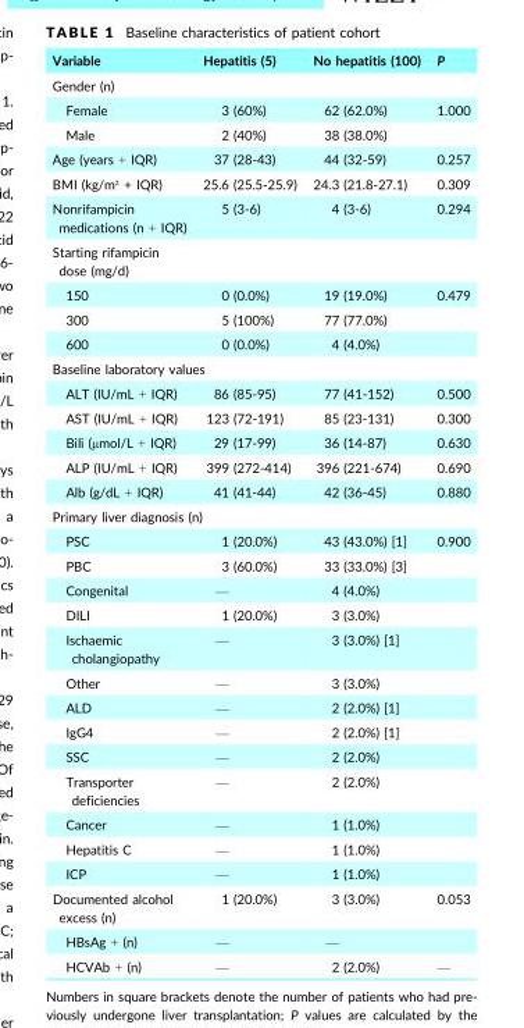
<table><thead><tr><td>Variable</td><td>Hepatitis (5)</td><td>No hepatitis (100)</td><td>P</td></tr></thead><tbody><tr><td colspan="4">Gender (n)</td></tr><tr><td>Female</td><td>3 (60%)</td><td>62 (62.0%)</td><td>1.000</td></tr><tr><td>Male</td><td>2 (40%)</td><td>38 (38.0%)</td><td></td></tr><tr><td>Age (years + IQR)</td><td>37 (28-43)</td><td>44 (32-59)</td><td>0.257</td></tr><tr><td>BMI (kg/m² + IQR)</td><td>25.6 (25.5-25.9)</td><td>24.3 (21.8-27.1)</td><td>0.309</td></tr><tr><td>Nonrifampicin medications (n + IQR)</td><td>5 (3-6)</td><td>4 (3-6)</td><td>0.294</td></tr><tr><td colspan="4">Starting rifampicin dose (mg/d)</td></tr><tr><td>150</td><td>0 (0.0%)</td><td>19 (19.0%)</td><td>0.479</td></tr><tr><td>300</td><td>5 (100%)</td><td>77 (77.0%)</td><td></td></tr><tr><td>600</td><td>0 (0.0%)</td><td>4 (4.0%)</td><td></td></tr><tr><td colspan="4">Baseline laboratory values</td></tr><tr><td>ALT (IU/mL + IQR)</td><td>86 (85-95)</td><td>77 (41-152)</td><td>0.500</td></tr><tr><td>AST (IU/mL + IQR)</td><td>123 (72-191)</td><td>85 (23-131)</td><td>0.300</td></tr><tr><td>Bili (μmol/L + IQR)</td><td>29 (17-99)</td><td>36 (14-87)</td><td>0.630</td></tr><tr><td>ALP (IU/mL + IQR)</td><td>399 (272-414)</td><td>396 (221-674)</td><td>0.690</td></tr><tr><td>Alb (g/dL + IQR)</td><td>41 (41-44)</td><td>42 (36-45)</td><td>0.880</td></tr><tr><td colspan="4">Primary liver diagnosis (n)</td></tr><tr><td>PSC</td><td>1 (20.0%)</td><td>43 (43.0%) [1]</td><td>0.900</td></tr><tr><td>PBC</td><td>3 (60.0%)</td><td>33 (33.0%) [3]</td><td></td></tr><tr><td>Congenital</td><td>—</td><td>4 (4.0%)</td><td></td></tr><tr><td>DILI</td><td>1 (20.0%)</td><td>3 (3.0%)</td><td></td></tr><tr><td>Ischaemic cholangiopathy</td><td>—</td><td>3 (3.0%) [1]</td><td></td></tr><tr><td>Other</td><td>—</td><td>3 (3.0%)</td><td></td></tr><tr><td>ALD</td><td>—</td><td>2 (2.0%) [1]</td><td></td></tr><tr><td>IgG4</td><td>—</td><td>2 (2.0%) [1]</td><td></td></tr><tr><td>SSC</td><td>—</td><td>2 (2.0%)</td><td></td></tr><tr><td>Transporter deficiencies</td><td>—</td><td>2 (2.0%)</td><td></td></tr><tr><td>Cancer</td><td>—</td><td>1 (1.0%)</td><td></td></tr><tr><td>Hepatitis C</td><td>—</td><td>1 (1.0%)</td><td></td></tr><tr><td>ICP</td><td>—</td><td>1 (1.0%)</td><td></td></tr><tr><td>Documented alcohol excess (n)</td><td>1 (20.0%)</td><td>3 (3.0%)</td><td>0.053</td></tr><tr><td>HBsAg + (n)</td><td>—</td><td>—</td><td></td></tr><tr><td>HCVAb + (n)</td><td>—</td><td>2 (2.0%)</td><td>—</td></tr></tbody></table>